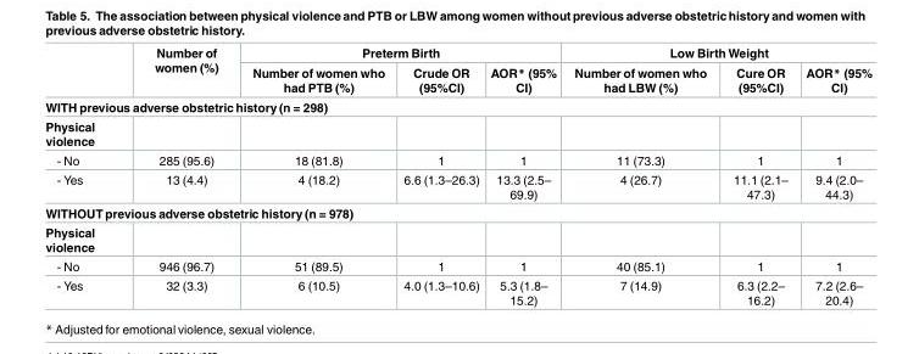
<table><thead><tr><td rowspan="2"></td><td rowspan="2">Number of women (%)</td><td colspan="3">Preterm Birth</td><td colspan="3">Low Birth Weight</td></tr><tr><td>Number of women who had PTB (%)</td><td>Crude OR (95%CI)</td><td>AOR* (95% CI)</td><td>Number of women who had LBW (%)</td><td>Cure OR (95%CI)</td><td>AOR* (95% CI)</td></tr></thead><tbody><tr><td colspan="8">WITH previous adverse obstetric history (n = 298)</td></tr><tr><td colspan="8">Physical violence</td></tr><tr><td>- No</td><td>285 (95.6)</td><td>18 (81.8)</td><td>1</td><td>1</td><td>11 (73.3)</td><td>1</td><td>1</td></tr><tr><td>- Yes</td><td>13 (4.4)</td><td>4 (18.2)</td><td>6.6 (1.3–26.3)</td><td>13.3 (2.5– 69.9)</td><td>4 (26.7)</td><td>11.1 (2.1– 47.3)</td><td>9.4 (2.0– 44.3)</td></tr><tr><td colspan="8">WITHOUT previous adverse obstetric history (n = 978)</td></tr><tr><td colspan="8">Physical violence</td></tr><tr><td>- No</td><td>946 (96.7)</td><td>51 (89.5)</td><td>1</td><td>1</td><td>40 (85.1)</td><td>1</td><td>1</td></tr><tr><td>- Yes</td><td>32 (3.3)</td><td>6 (10.5)</td><td>4.0 (1.3–10.6)</td><td>5.3 (1.8– 15.2)</td><td>7 (14.9)</td><td>6.3 (2.2– 16.2)</td><td>7.2 (2.6– 20.4)</td></tr></tbody></table>